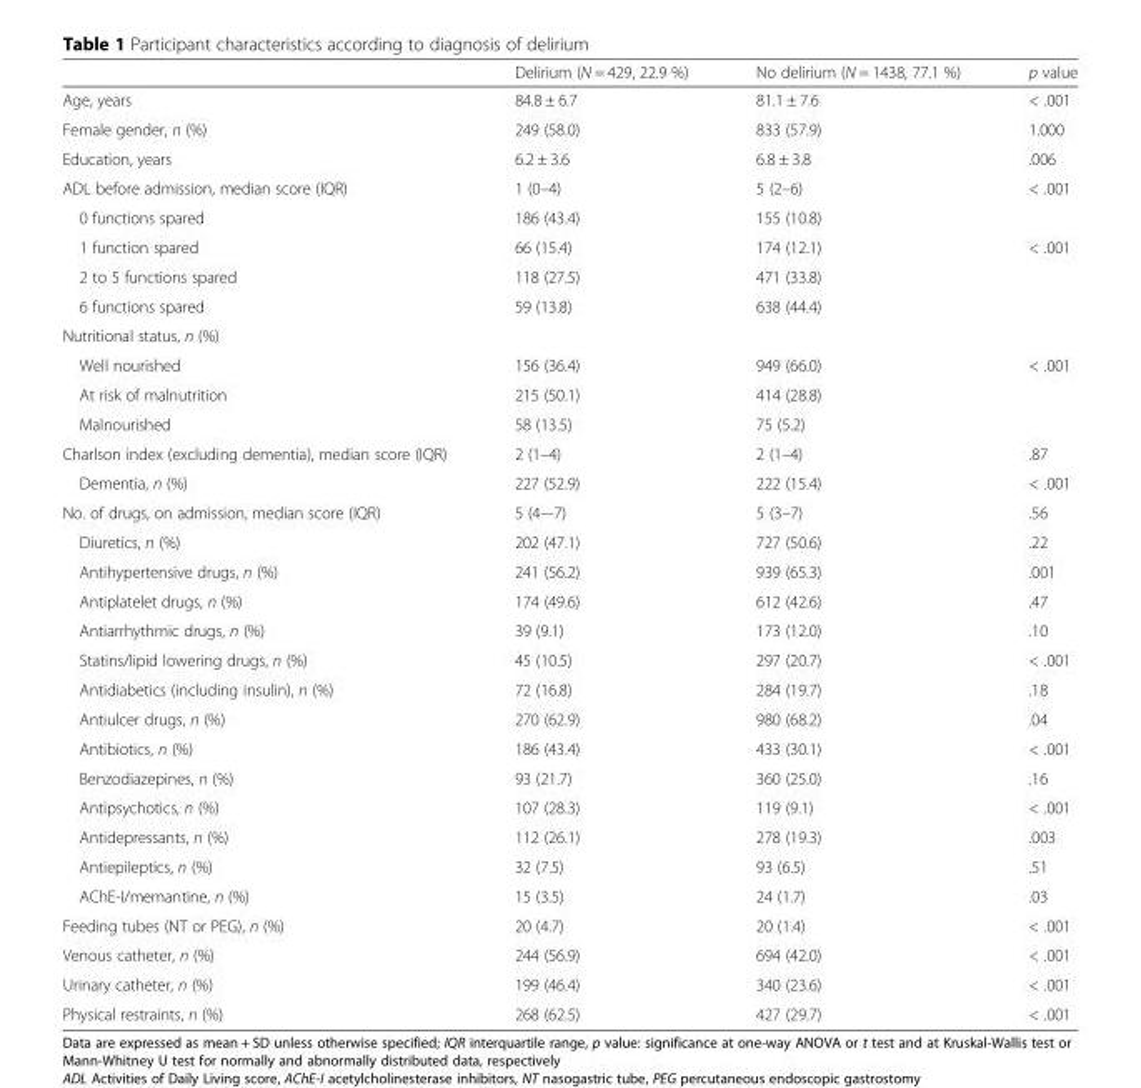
<table><thead><tr><td></td><td>Delirium (N = 429, 22.9 %)</td><td>No delirium (N = 1438, 77.1 %)</td><td>p value</td></tr></thead><tbody><tr><td>Age, years</td><td>84.8 ± 6.7</td><td>81.1 ± 7.6</td><td>&lt; .001</td></tr><tr><td>Female gender, n (%)</td><td>249 (58.0)</td><td>833 (57.9)</td><td>1.000</td></tr><tr><td>Education, years</td><td>6.2 ± 3.6</td><td>6.8 ± 3.8</td><td>.006</td></tr><tr><td>ADL before admission, median score (IQR)</td><td>1 (0–4)</td><td>5 (2–6)</td><td>&lt; .001</td></tr><tr><td>0 functions spared</td><td>186 (43.4)</td><td>155 (10.8)</td><td></td></tr><tr><td>1 function spared</td><td>66 (15.4)</td><td>174 (12.1)</td><td>&lt; .001</td></tr><tr><td>2 to 5 functions spared</td><td>118 (27.5)</td><td>471 (33.8)</td><td></td></tr><tr><td>6 functions spared</td><td>59 (13.8)</td><td>638 (44.4)</td><td></td></tr><tr><td colspan="4">Nutritional status, n (%)</td></tr><tr><td>Well nourished</td><td>156 (36.4)</td><td>949 (66.0)</td><td rowspan="3">&lt; .001</td></tr><tr><td>At risk of malnutrition</td><td>215 (50.1)</td><td>414 (28.8)</td></tr><tr><td>Malnourished</td><td>58 (13.5)</td><td>75 (5.2)</td></tr><tr><td>Charlson index (excluding dementia), median score (IQR)</td><td>2 (1–4)</td><td>2 (1–4)</td><td>.87</td></tr><tr><td>Dementia, n (%)</td><td>227 (52.9)</td><td>222 (15.4)</td><td>&lt; .001</td></tr><tr><td>No. of drugs, on admission, median score (IQR)</td><td>5 (4–-7)</td><td>5 (3–7)</td><td>.56</td></tr><tr><td>Diuretics, n (%)</td><td>202 (47.1)</td><td>727 (50.6)</td><td>.22</td></tr><tr><td>Antihypertensive drugs, n (%)</td><td>241 (56.2)</td><td>939 (65.3)</td><td>.001</td></tr><tr><td>Antiplatelet drugs, n (%)</td><td>174 (49.6)</td><td>612 (42.6)</td><td>.47</td></tr><tr><td>Antiarrhythmic drugs, n (%)</td><td>39 (9.1)</td><td>173 (12.0)</td><td>.10</td></tr><tr><td>Statins/lipid lowering drugs, n (%)</td><td>45 (10.5)</td><td>297 (20.7)</td><td>&lt; .001</td></tr><tr><td>Antidiabetics (including insulin), n (%)</td><td>72 (16.8)</td><td>284 (19.7)</td><td>.18</td></tr><tr><td>Antiulcer drugs, n (%)</td><td>270 (62.9)</td><td>980 (68.2)</td><td>.04</td></tr><tr><td>Antibiotics, n (%)</td><td>186 (43.4)</td><td>433 (30.1)</td><td>&lt; .001</td></tr><tr><td>Benzodiazepines, n (%)</td><td>93 (21.7)</td><td>360 (25.0)</td><td>.16</td></tr><tr><td>Antipsychotics, n (%)</td><td>107 (28.3)</td><td>119 (9.1)</td><td>&lt; .001</td></tr><tr><td>Antidepressants, n (%)</td><td>112 (26.1)</td><td>278 (19.3)</td><td>.003</td></tr><tr><td>Antiepileptics, n (%)</td><td>32 (7.5)</td><td>93 (6.5)</td><td>.51</td></tr><tr><td>AChE-I/memantine, n (%)</td><td>15 (3.5)</td><td>24 (1.7)</td><td>.03</td></tr><tr><td>Feeding tubes (NT or PEG), n (%)</td><td>20 (4.7)</td><td>20 (1.4)</td><td>&lt; .001</td></tr><tr><td>Venous catheter, n (%)</td><td>244 (56.9)</td><td>694 (42.0)</td><td>&lt; .001</td></tr><tr><td>Urinary catheter, n (%)</td><td>199 (46.4)</td><td>340 (23.6)</td><td>&lt; .001</td></tr><tr><td>Physical restraints, n (%)</td><td>268 (62.5)</td><td>427 (29.7)</td><td>&lt; .001</td></tr></tbody></table>